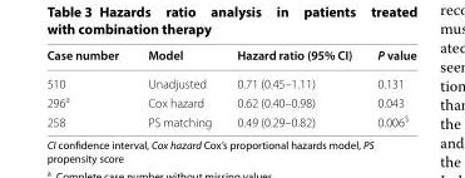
<table><thead><tr><td>Case number</td><td>Model</td><td>Hazard ratio (95% CI)</td><td>P value</td></tr></thead><tbody><tr><td>510</td><td>Unadjusted</td><td>0.71 (0.45–1.11)</td><td>0.131</td></tr><tr><td>296<sup>a</sup></td><td>Cox hazard</td><td>0.62 (0.40–0.98)</td><td>0.043</td></tr><tr><td>258</td><td>PS matching</td><td>0.49 (0.29–0.82)</td><td>0.006<sup>$</sup></td></tr></tbody></table>